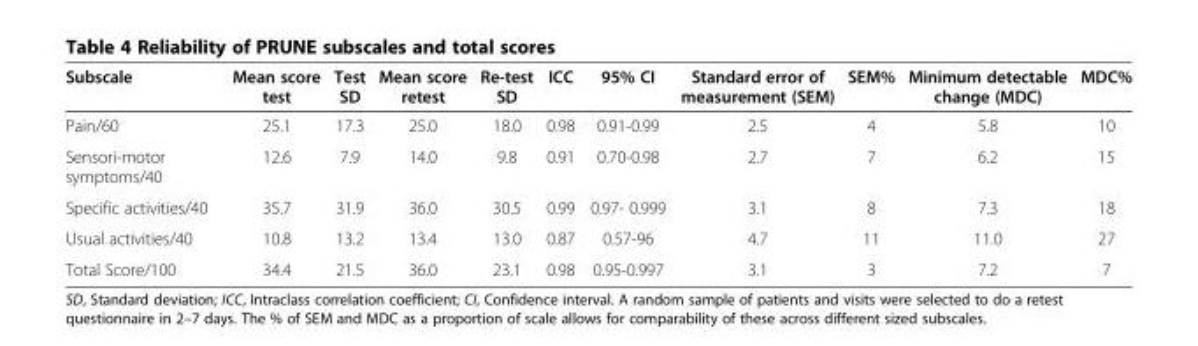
<table><thead><tr><td>Subscale</td><td>Mean score test</td><td>Test SD</td><td>Mean score retest</td><td>Re-test SD</td><td>ICC</td><td>95% CI</td><td>Standard error of measurement (SEM)</td><td>SEM%</td><td>Minimum detectable change (MDC)</td><td>MDC%</td></tr></thead><tbody><tr><td>Pain/60</td><td>25.1</td><td>17.3</td><td>25.0</td><td>18.0</td><td>0.98</td><td>0.91-0.99</td><td>2.5</td><td>4</td><td>5.8</td><td>10</td></tr><tr><td>Sensori-motor symptoms/40</td><td>12.6</td><td>7.9</td><td>14.0</td><td>9.8</td><td>0.91</td><td>0.70-0.98</td><td>2.7</td><td>7</td><td>6.2</td><td>15</td></tr><tr><td>Specific activities/40</td><td>35.7</td><td>31.9</td><td>36.0</td><td>30.5</td><td>0.99</td><td>0.97- 0.999</td><td>3.1</td><td>8</td><td>7.3</td><td>18</td></tr><tr><td>Usual activities/40</td><td>10.8</td><td>13.2</td><td>13.4</td><td>13.0</td><td>0.87</td><td>0.57-96</td><td>4.7</td><td>11</td><td>11.0</td><td>27</td></tr><tr><td>Total Score/100</td><td>34.4</td><td>21.5</td><td>36.0</td><td>23.1</td><td>0.98</td><td>0.95-0.997</td><td>3.1</td><td>3</td><td>7.2</td><td>7</td></tr></tbody></table>